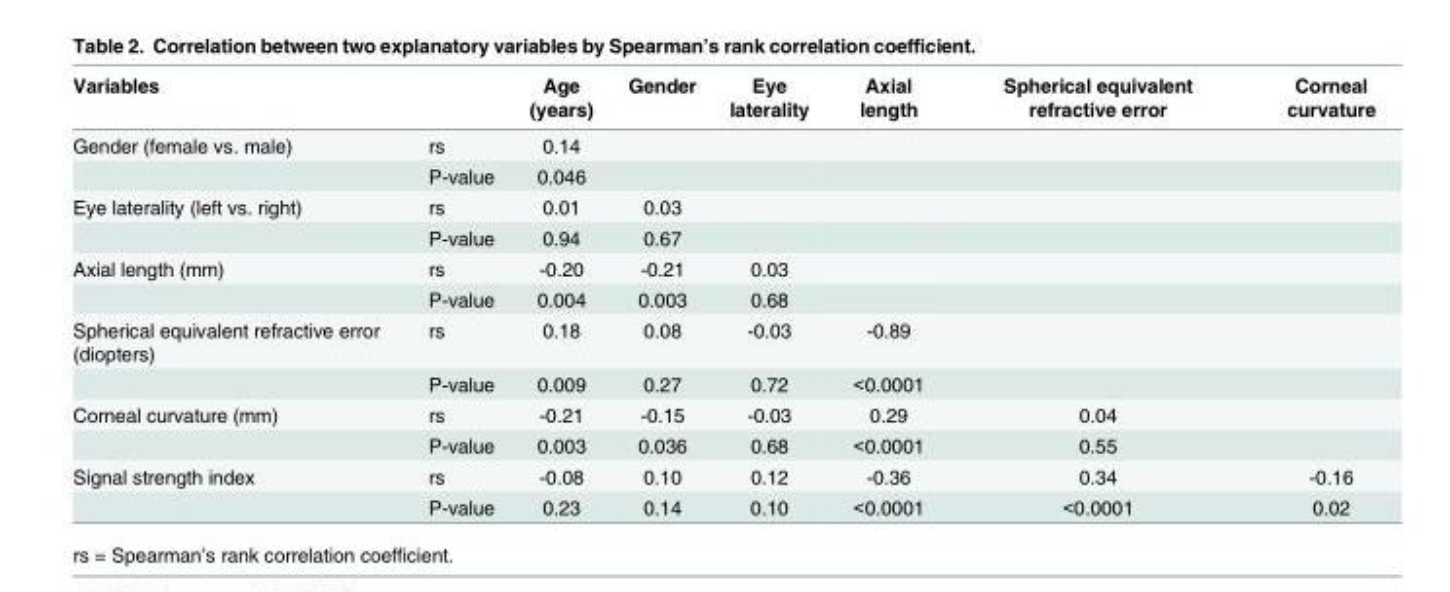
<table><thead><tr><td>Variables</td><td></td><td>Age (years)</td><td>Gender</td><td>Eye laterality</td><td>Axial length</td><td>Spherical equivalent refractive error</td><td>Corneal curvature</td></tr></thead><tbody><tr><td rowspan="2">Gender (female vs. male)</td><td>rs</td><td>0.14</td><td></td><td></td><td></td><td></td><td></td></tr><tr><td>P-value</td><td>0.046</td><td></td><td></td><td></td><td></td><td></td></tr><tr><td rowspan="2">Eye laterality (left vs. right)</td><td>rs</td><td>0.01</td><td>0.03</td><td></td><td></td><td></td><td></td></tr><tr><td>P-value</td><td>0.94</td><td>0.67</td><td></td><td></td><td></td><td></td></tr><tr><td rowspan="2">Axial length (mm)</td><td>rs</td><td>-0.20</td><td>-0.21</td><td>0.03</td><td></td><td></td><td></td></tr><tr><td>P-value</td><td>0.004</td><td>0.003</td><td>0.68</td><td></td><td></td><td></td></tr><tr><td rowspan="2">Spherical equivalent refractive error (diopters)</td><td>rs</td><td>0.18</td><td>0.08</td><td>-0.03</td><td>-0.89</td><td></td><td></td></tr><tr><td>P-value</td><td>0.009</td><td>0.27</td><td>0.72</td><td>&lt;0.0001</td><td></td><td></td></tr><tr><td rowspan="2">Corneal curvature (mm)</td><td>rs</td><td>-0.21</td><td>-0.15</td><td>-0.03</td><td>0.29</td><td>0.04</td><td></td></tr><tr><td>P-value</td><td>0.003</td><td>0.036</td><td>0.68</td><td>&lt;0.0001</td><td>0.55</td><td></td></tr><tr><td rowspan="2">Signal strength index</td><td>rs</td><td>-0.08</td><td>0.10</td><td>0.12</td><td>-0.36</td><td>0.34</td><td>-0.16</td></tr><tr><td>P-value</td><td>0.23</td><td>0.14</td><td>0.10</td><td>&lt;0.0001</td><td>&lt;0.0001</td><td>0.02</td></tr></tbody></table>